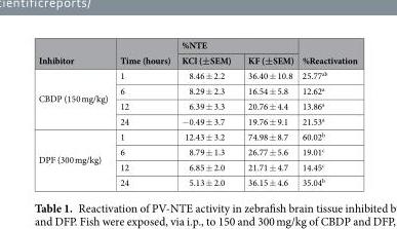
<table><thead><tr><td rowspan="2">Inhibitor</td><td rowspan="2">Time (hours)</td><td colspan="2">%NTE</td><td rowspan="2">%Reactivation</td></tr><tr><td>KCl (±SEM)</td><td>KF (±SEM)</td></tr></thead><tbody><tr><td rowspan="4">CBDP (150 mg/kg)</td><td>1</td><td>8.46 ± 2.2</td><td>36.40 ± 10.8</td><td>25.77<sup>ab</sup></td></tr><tr><td>6</td><td>8.29 ± 2.3</td><td>16.54 ± 5.8</td><td>12.62<sup>a</sup></td></tr><tr><td>12</td><td>6.39 ± 3.3</td><td>20.76 ± 4.4</td><td>13.86<sup>a</sup></td></tr><tr><td>24</td><td>−0.49 ± 3.7</td><td>19.76 ± 9.1</td><td>21.53<sup>a</sup></td></tr><tr><td rowspan="4">DPF (300 mg/kg)</td><td>1</td><td>12.43 ± 3.2</td><td>74.98 ± 8.7</td><td>60.02<sup>b</sup></td></tr><tr><td>6</td><td>8.79 ± 1.3</td><td>26.77 ± 5.6</td><td>19.01<sup>c</sup></td></tr><tr><td>12</td><td>6.85 ± 2.0</td><td>21.71 ± 4.7</td><td>14.45<sup>c</sup></td></tr><tr><td>24</td><td>5.13 ± 2.0</td><td>36.15 ± 4.6</td><td>35.04<sup>b</sup></td></tr></tbody></table>